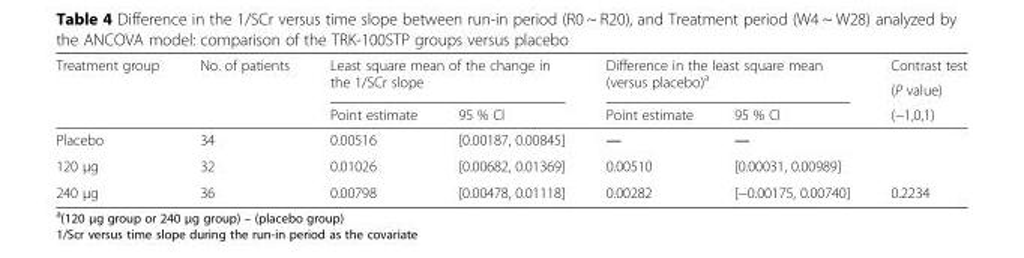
<table><thead><tr><td rowspan="3">Treatment group</td><td rowspan="3">No. of patients</td><td rowspan="2" colspan="2">Least square mean of the change in the 1/SCr slope</td><td rowspan="2" colspan="2">Difference in the least square mean (versus placebo)<sup>a</sup></td><td rowspan="3">Contrast test (P value) (−1,0,1)</td></tr><tr></tr><tr><td>Point estimate</td><td>95 % CI</td><td>Point estimate</td><td>95 % CI</td></tr></thead><tbody><tr><td>Placebo</td><td>34</td><td>0.00516</td><td>[0.00187, 0.00845]</td><td>―</td><td>―</td><td></td></tr><tr><td>120 μg</td><td>32</td><td>0.01026</td><td>[0.00682, 0.01369]</td><td>0.00510</td><td>[0.00031, 0.00989]</td><td></td></tr><tr><td>240 μg</td><td>36</td><td>0.00798</td><td>[0.00478, 0.01118]</td><td>0.00282</td><td>[−0.00175, 0.00740]</td><td>0.2234</td></tr></tbody></table>